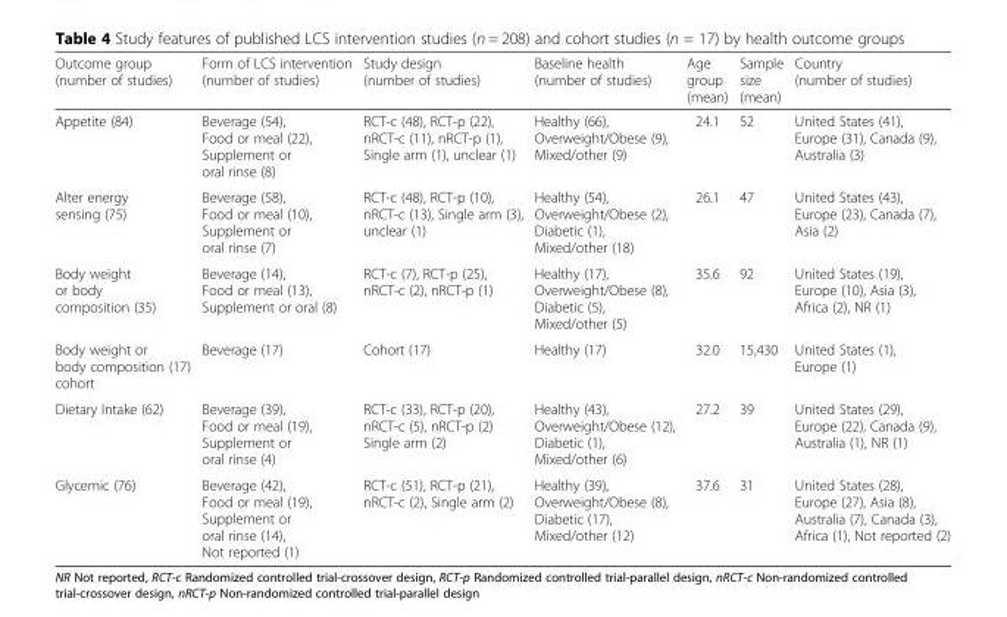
<table><thead><tr><td>Outcome group (number of studies)</td><td>Form of LCS intervention (number of studies)</td><td>Study design (number of studies)</td><td>Baseline health (number of studies)</td><td>Age group (mean)</td><td>Sample size (mean)</td><td>Country (number of studies)</td></tr></thead><tbody><tr><td>Appetite (84)</td><td>Beverage (54), Food or meal (22), Supplement or oral rinse (8)</td><td>RCT-c (48), RCT-p (22), nRCT-c (11), nRCT-p (1), Single arm (1), unclear (1)</td><td>Healthy (66), Overweight/Obese (9), Mixed/other (9)</td><td>24.1</td><td>52</td><td>United States (41), Europe (31), Canada (9), Australia (3)</td></tr><tr><td>Alter energy sensing (75)</td><td>Beverage (58), Food or meal (10), Supplement or oral rinse (7)</td><td>RCT-c (48), RCT-p (10), nRCT-c (13), Single arm (3), unclear (1)</td><td>Healthy (54), Overweight/Obese (2), Diabetic (1), Mixed/other (18)</td><td>26.1</td><td>47</td><td>United States (43), Europe (23), Canada (7), Asia (2)</td></tr><tr><td>Body weight or body composition (35)</td><td>Beverage (14), Food or meal (13), Supplement or oral (8)</td><td>RCT-c (7), RCT-p (25), nRCT-c (2), nRCT-p (1)</td><td>Healthy (17), Overweight/Obese (8), Diabetic (5), Mixed/other (5)</td><td>35.6</td><td>92</td><td>United States (19), Europe (10), Asia (3), Africa (2), NR (1)</td></tr><tr><td>Body weight or body composition (17) cohort</td><td>Beverage (17)</td><td>Cohort (17)</td><td>Healthy (17)</td><td>32.0</td><td>15,430</td><td>United States (1), Europe (1)</td></tr><tr><td>Dietary Intake (62)</td><td>Beverage (39), Food or meal (19), Supplement or oral rinse (4)</td><td>RCT-c (33), RCT-p (20), nRCT-c (5), nRCT-p (2) Single arm (2)</td><td>Healthy (43), Overweight/Obese (12), Diabetic (1), Mixed/other (6)</td><td>27.2</td><td>39</td><td>United States (29), Europe (22), Canada (9), Australia (1), NR (1)</td></tr><tr><td>Glycemic (76)</td><td>Beverage (42), Food or meal (19), Supplement or oral rinse (14), Not reported (1)</td><td>RCT-c (51), RCT-p (21), nRCT-c (2), Single arm (2)</td><td>Healthy (39), Overweight/Obese (8), Diabetic (17), Mixed/other (12)</td><td>37.6</td><td>31</td><td>United States (28), Europe (27), Asia (8), Australia (7), Canada (3), Africa (1), Not reported (2)</td></tr></tbody></table>